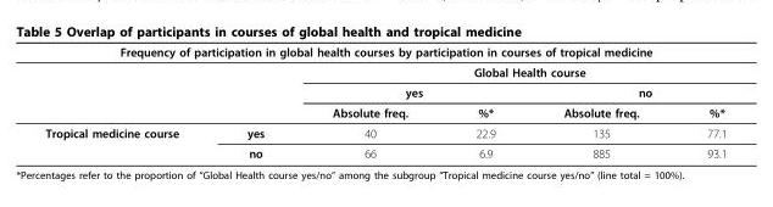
<table><thead><tr><td colspan="6">Frequency of participation in global health courses by participation in courses of tropical medicine</td></tr><tr><td rowspan="3"></td><td rowspan="3"></td><td colspan="4">Global Health course</td></tr><tr><td colspan="2">yes</td><td colspan="2">no</td></tr><tr><td>Absolute freq.</td><td>%*</td><td>Absolute freq.</td><td>%*</td></tr></thead><tbody><tr><td rowspan="2">Tropical medicine course</td><td>yes</td><td>40</td><td>22.9</td><td>135</td><td>77.1</td></tr><tr><td>no</td><td>66</td><td>6.9</td><td>885</td><td>93.1</td></tr></tbody></table>